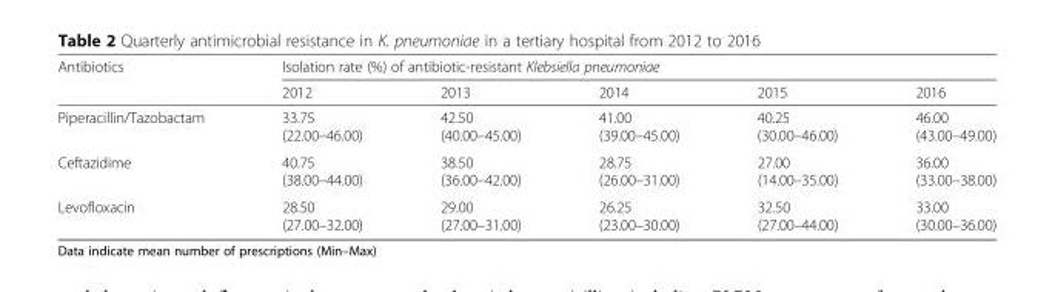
<table><thead><tr><td rowspan="2">Antibiotics</td><td colspan="5">Isolation rate (%) of antibiotic-resistant Klebsiella pneumoniae</td></tr><tr><td>2012</td><td>2013</td><td>2014</td><td>2015</td><td>2016</td></tr></thead><tbody><tr><td>Piperacillin/Tazobactam</td><td>33.75 (22.00–46.00)</td><td>42.50 (40.00–45.00)</td><td>41.00 (39.00–45.00)</td><td>40.25 (30.00–46.00)</td><td>46.00 (43.00–49.00)</td></tr><tr><td>Ceftazidime</td><td>40.75 (38.00–44.00)</td><td>38.50 (36.00–42.00)</td><td>28.75 (26.00–31.00)</td><td>27.00 (14.00–35.00)</td><td>36.00 (33.00–38.00)</td></tr><tr><td>Levofloxacin</td><td>28.50 (27.00–32.00)</td><td>29.00 (27.00–31.00)</td><td>26.25 (23.00–30.00)</td><td>32.50 (27.00–44.00)</td><td>33.00 (30.00–36.00)</td></tr></tbody></table>